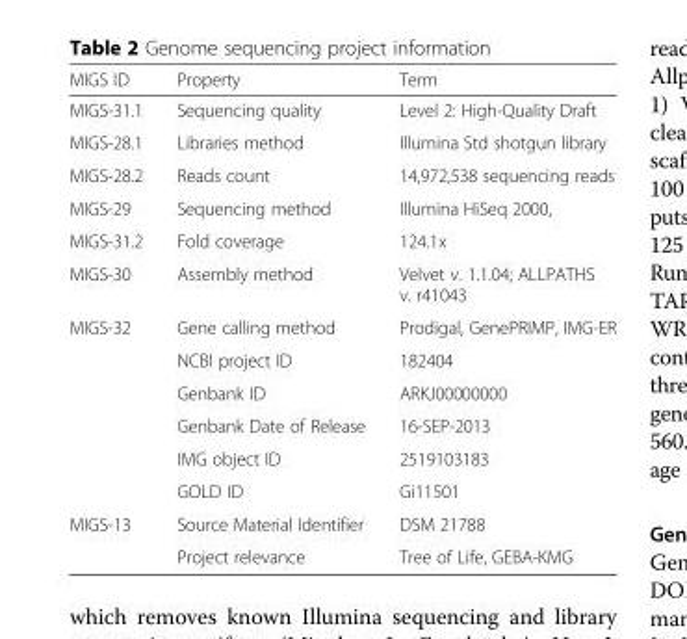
<table><thead><tr><td>MIGS ID</td><td>Property</td><td>Term</td></tr></thead><tbody><tr><td>MIGS-31.1</td><td>Sequencing quality</td><td>Level 2: High-Quality Draft</td></tr><tr><td>MIGS-28.1</td><td>Libraries method</td><td>Illumina Std shotgun library</td></tr><tr><td>MIGS-28.2</td><td>Reads count</td><td>14,972,538 sequencing reads</td></tr><tr><td>MIGS-29</td><td>Sequencing method</td><td>Illumina HiSeq 2000,</td></tr><tr><td>MIGS-31.2</td><td>Fold coverage</td><td>124.1x</td></tr><tr><td>MIGS-30</td><td>Assembly method</td><td>Velvet v. 1.1.04; ALLPATHS v. r41043</td></tr><tr><td rowspan="6">MIGS-32</td><td>Gene calling method</td><td>Prodigal, GenePRIMP, IMG-ER</td></tr><tr><td>NCBI project ID</td><td>182404</td></tr><tr><td>Genbank ID</td><td>ARKJ00000000</td></tr><tr><td>Genbank Date of Release</td><td>16-SEP-2013</td></tr><tr><td>IMG object ID</td><td>2519103183</td></tr><tr><td>GOLD ID</td><td>Gi11501</td></tr><tr><td rowspan="2">MIGS-13</td><td>Source Material Identifier</td><td>DSM 21788</td></tr><tr><td>Project relevance</td><td>Tree of Life, GEBA-KMG</td></tr></tbody></table>